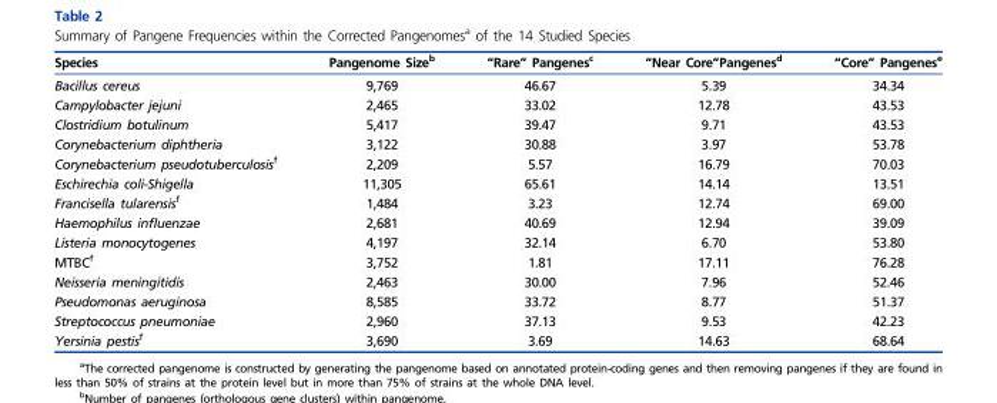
<table><thead><tr><td>Species</td><td>Pangenome Size<sup>b</sup></td><td>“Rare” Pangenes<sup>c</sup></td><td>“Near Core”Pangenes<sup>d</sup></td><td>“Core” Pangenes<sup>e</sup></td></tr></thead><tbody><tr><td>Bacillus cereus</td><td>9,769</td><td>46.67</td><td>5.39</td><td>34.34</td></tr><tr><td>Campylobacter jejuni</td><td>2,465</td><td>33.02</td><td>12.78</td><td>43.53</td></tr><tr><td>Clostridium botulinum</td><td>5,417</td><td>39.47</td><td>9.71</td><td>43.53</td></tr><tr><td>Corynebacterium diphtheria</td><td>3,122</td><td>30.88</td><td>3.97</td><td>53.78</td></tr><tr><td>Corynebacterium pseudotuberculosis<sup>f</sup></td><td>2,209</td><td>5.57</td><td>16.79</td><td>70.03</td></tr><tr><td>Eschirechia coli-Shigella</td><td>11,305</td><td>65.61</td><td>14.14</td><td>13.51</td></tr><tr><td>Francisella tularensis<sup>f</sup></td><td>1,484</td><td>3.23</td><td>12.74</td><td>69.00</td></tr><tr><td>Haemophilus influenzae</td><td>2,681</td><td>40.69</td><td>12.94</td><td>39.09</td></tr><tr><td>Listeria monocytogenes</td><td>4,197</td><td>32.14</td><td>6.70</td><td>53.80</td></tr><tr><td>MTBC<sup>f</sup></td><td>3,752</td><td>1.81</td><td>17.11</td><td>76.28</td></tr><tr><td>Neisseria meningitidis</td><td>2,463</td><td>30.00</td><td>7.96</td><td>52.46</td></tr><tr><td>Pseudomonas aeruginosa</td><td>8,585</td><td>33.72</td><td>8.77</td><td>51.37</td></tr><tr><td>Streptococcus pneumoniae</td><td>2,960</td><td>37.13</td><td>9.53</td><td>42.23</td></tr><tr><td>Yersinia pestis<sup>f</sup></td><td>3,690</td><td>3.69</td><td>14.63</td><td>68.64</td></tr></tbody></table>